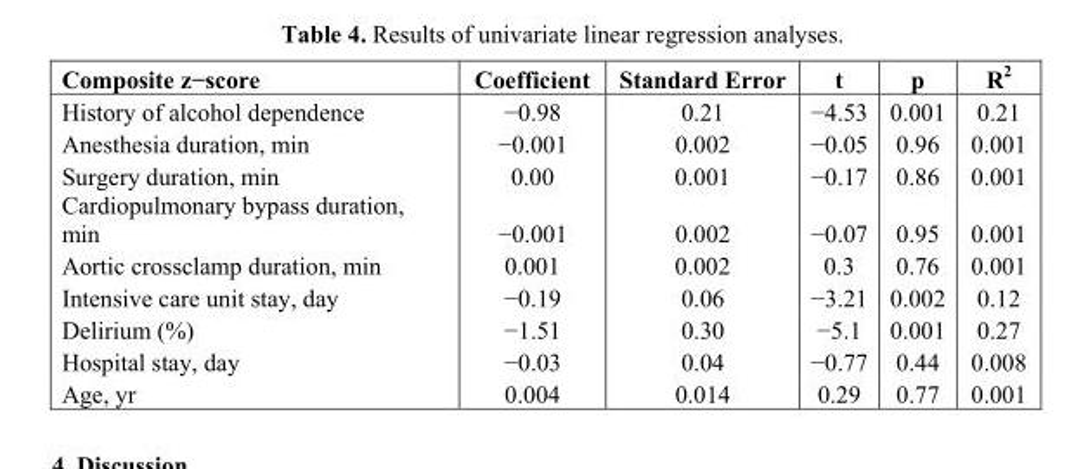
<table><thead><tr><td>Composite z−score</td><td>Coefficient</td><td>Standard Error</td><td>t</td><td>p</td><td>R<sup>2</sup></td></tr></thead><tbody><tr><td>History of alcohol dependence</td><td>−0.98</td><td>0.21</td><td>−4.53</td><td>0.001</td><td>0.21</td></tr><tr><td>Anesthesia duration, min</td><td>−0.001</td><td>0.002</td><td>−0.05</td><td>0.96</td><td>0.001</td></tr><tr><td>Surgery duration, min</td><td>0.00</td><td>0.001</td><td>−0.17</td><td>0.86</td><td>0.001</td></tr><tr><td>Cardiopulmonary bypass duration, min</td><td>−0.001</td><td>0.002</td><td>−0.07</td><td>0.95</td><td>0.001</td></tr><tr><td>Aortic crossclamp duration, min</td><td>0.001</td><td>0.002</td><td>0.3</td><td>0.76</td><td>0.001</td></tr><tr><td>Intensive care unit stay, day</td><td>−0.19</td><td>0.06</td><td>−3.21</td><td>0.002</td><td>0.12</td></tr><tr><td>Delirium (%)</td><td>−1.51</td><td>0.30</td><td>−5.1</td><td>0.001</td><td>0.27</td></tr><tr><td>Hospital stay, day</td><td>−0.03</td><td>0.04</td><td>−0.77</td><td>0.44</td><td>0.008</td></tr><tr><td>Age, yr</td><td>0.004</td><td>0.014</td><td>0.29</td><td>0.77</td><td>0.001</td></tr></tbody></table>